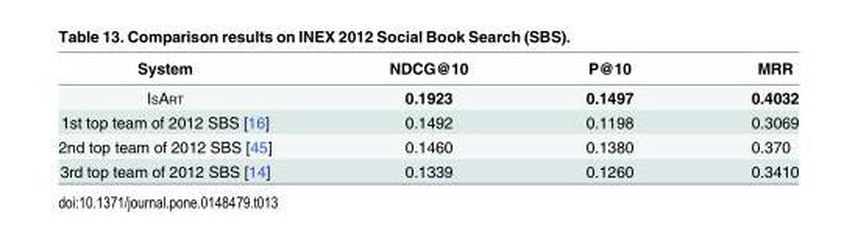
<table><thead><tr><td>System</td><td>NDCG@10</td><td>P@10</td><td>MRR</td></tr></thead><tbody><tr><td>ISART</td><td>0.1923</td><td>0.1497</td><td>0.4032</td></tr><tr><td>1st top team of 2012 SBS [16]</td><td>0.1492</td><td>0.1198</td><td>0.3069</td></tr><tr><td>2nd top team of 2012 SBS [45]</td><td>0.1460</td><td>0.1380</td><td>0.370</td></tr><tr><td>3rd top team of 2012 SBS [14]</td><td>0.1339</td><td>0.1260</td><td>0.3410</td></tr></tbody></table>